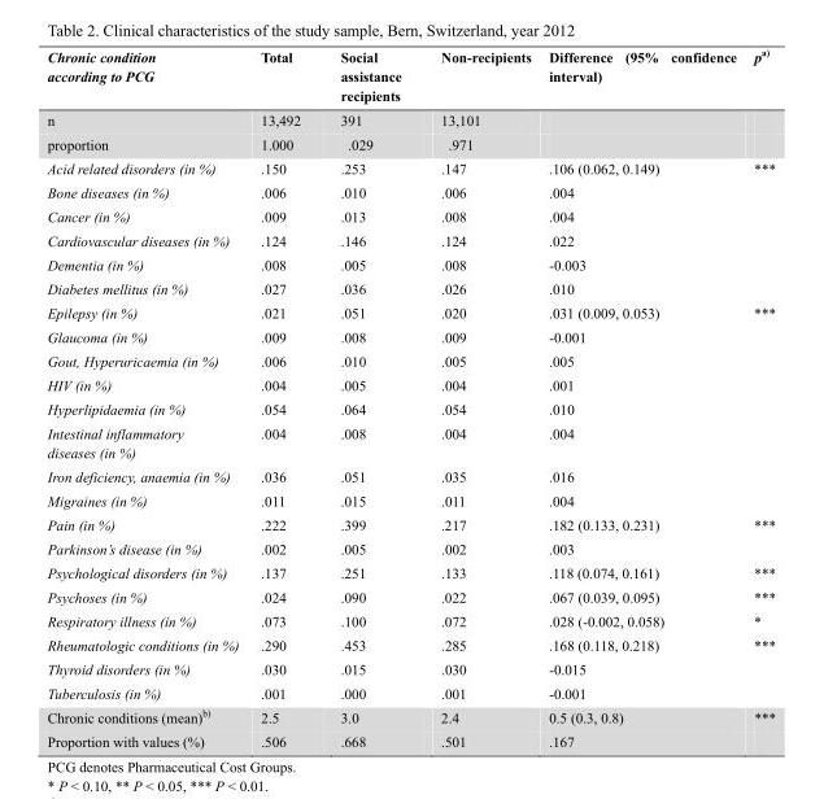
<table><thead><tr><td>Chronic condition according to PCG</td><td>Total</td><td>Social assistance recipients</td><td>Non-recipients</td><td>Difference (95% confidence interval)</td><td>p<sup>a)</sup></td></tr></thead><tbody><tr><td>n</td><td>13,492</td><td>391</td><td>13,101</td><td></td><td></td></tr><tr><td>proportion</td><td>1.000</td><td>.029</td><td>.971</td><td></td><td></td></tr><tr><td>Acid related disorders (in %)</td><td>.150</td><td>.253</td><td>.147</td><td>.106 (0.062, 0.149)</td><td>***</td></tr><tr><td>Bone diseases (in %)</td><td>.006</td><td>.010</td><td>.006</td><td>.004</td><td></td></tr><tr><td>Cancer (in %)</td><td>.009</td><td>.013</td><td>.008</td><td>.004</td><td></td></tr><tr><td>Cardiovascular diseases (in %)</td><td>.124</td><td>.146</td><td>.124</td><td>.022</td><td></td></tr><tr><td>Dementia (in %)</td><td>.008</td><td>.005</td><td>.008</td><td>-0.003</td><td></td></tr><tr><td>Diabetes mellitus (in %)</td><td>.027</td><td>.036</td><td>.026</td><td>.010</td><td></td></tr><tr><td>Epilepsy (in %)</td><td>.021</td><td>.051</td><td>.020</td><td>.031 (0.009, 0.053)</td><td>***</td></tr><tr><td>Glaucoma (in %)</td><td>.009</td><td>.008</td><td>.009</td><td>-0.001</td><td></td></tr><tr><td>Gout, Hyperuricaemia (in %)</td><td>.006</td><td>.010</td><td>.005</td><td>.005</td><td></td></tr><tr><td>HIV (in %)</td><td>.004</td><td>.005</td><td>.004</td><td>.001</td><td></td></tr><tr><td>Hyperlipidaemia (in %)</td><td>.054</td><td>.064</td><td>.054</td><td>.010</td><td></td></tr><tr><td>Intestinal inflammatory diseases (in %)</td><td>.004</td><td>.008</td><td>.004</td><td>.004</td><td></td></tr><tr><td>Iron deficiency, anaemia (in %)</td><td>.036</td><td>.051</td><td>.035</td><td>.016</td><td></td></tr><tr><td>Migraines (in %)</td><td>.011</td><td>.015</td><td>.011</td><td>.004</td><td></td></tr><tr><td>Pain (in %)</td><td>.222</td><td>.399</td><td>.217</td><td>.182 (0.133, 0.231)</td><td>***</td></tr><tr><td>Parkinson’s disease (in %)</td><td>.002</td><td>.005</td><td>.002</td><td>.003</td><td></td></tr><tr><td>Psychological disorders (in %)</td><td>.137</td><td>.251</td><td>.133</td><td>.118 (0.074, 0.161)</td><td>***</td></tr><tr><td>Psychoses (in %)</td><td>.024</td><td>.090</td><td>.022</td><td>.067 (0.039, 0.095)</td><td>***</td></tr><tr><td>Respiratory illness (in %)</td><td>.073</td><td>.100</td><td>.072</td><td>.028 (-0.002, 0.058)</td><td>*</td></tr><tr><td>Rheumatologic conditions (in %)</td><td>.290</td><td>.453</td><td>.285</td><td>.168 (0.118, 0.218)</td><td>***</td></tr><tr><td>Thyroid disorders (in %)</td><td>.030</td><td>.015</td><td>.030</td><td>-0.015</td><td></td></tr><tr><td>Tuberculosis (in %)</td><td>.001</td><td>.000</td><td>.001</td><td>-0.001</td><td></td></tr><tr><td>Chronic conditions (mean)<sup>b)</sup></td><td>2.5</td><td>3.0</td><td>2.4</td><td>0.5 (0.3, 0.8)</td><td>***</td></tr><tr><td>Proportion with values (%)</td><td>.506</td><td>.668</td><td>.501</td><td>.167</td><td></td></tr></tbody></table>